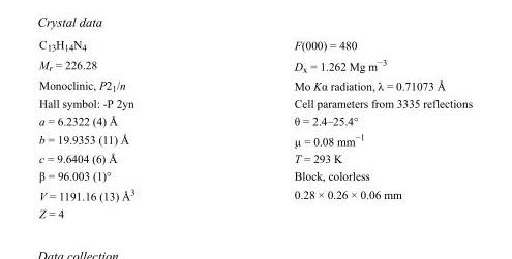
<table><tbody><tr><td>C<sub>13</sub>H<sub>14</sub>N<sub>4</sub></td><td>F(000) = 480</td></tr><tr><td>M<sub>r</sub> = 226.28</td><td>D<sub>x</sub> = 1.262 Mg m<sup>−3</sup></td></tr><tr><td>Monoclinic, P2<sub>1</sub>/n</td><td>Mo Kα radiation, λ = 0.71073 Å</td></tr><tr><td>Hall symbol: -P 2yn</td><td>Cell parameters from 3335 reflections</td></tr><tr><td>a = 6.2322 (4) Å</td><td>θ = 2.4–25.4°</td></tr><tr><td>b = 19.9353 (11) Å</td><td>µ = 0.08 mm<sup>−1</sup></td></tr><tr><td>c = 9.6404 (6) Å</td><td>T = 293 K</td></tr><tr><td>β = 96.003 (1)°</td><td>Block, colorless</td></tr><tr><td>V = 1191.16 (13) Å<sup>3</sup></td><td>0.28 × 0.26 × 0.06 mm</td></tr><tr><td>Z = 4</td><td></td></tr></tbody></table>